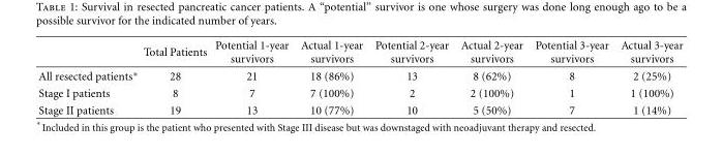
<table><thead><tr><td></td><td>Total Patients</td><td>Potential 1-year survivors</td><td>Actual 1-year survivors</td><td>Potential 2-year survivors</td><td>Actual 2-year survivors</td><td>Potential 3-year survivors</td><td>Actual 3-year survivors</td></tr></thead><tbody><tr><td>All resected patients∗</td><td>28</td><td>21</td><td>18 (86%)</td><td>13</td><td>8 (62%)</td><td>8</td><td>2 (25%)</td></tr><tr><td>Stage I patients</td><td>8</td><td>7</td><td>7 (100%)</td><td>2</td><td>2 (100%)</td><td>1</td><td>1 (100%)</td></tr><tr><td>Stage II patients</td><td>19</td><td>13</td><td>10 (77%)</td><td>10</td><td>5 (50%)</td><td>7</td><td>1 (14%)</td></tr></tbody></table>